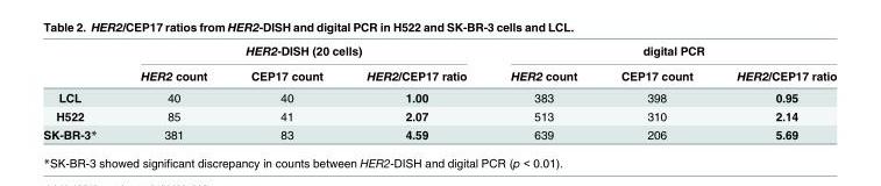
<table><thead><tr><td rowspan="2"></td><td colspan="3">HER2-DISH (20 cells)</td><td colspan="3">digital PCR</td></tr><tr><td>HER2 count</td><td>CEP17 count</td><td>HER2/CEP17 ratio</td><td>HER2 count</td><td>CEP17 count</td><td>HER2/CEP17 ratio</td></tr></thead><tbody><tr><td>LCL</td><td>40</td><td>40</td><td>1.00</td><td>383</td><td>398</td><td>0.95</td></tr><tr><td>H522</td><td>85</td><td>41</td><td>2.07</td><td>513</td><td>310</td><td>2.14</td></tr><tr><td>SK-BR-3*</td><td>381</td><td>83</td><td>4.59</td><td>639</td><td>206</td><td>5.69</td></tr></tbody></table>